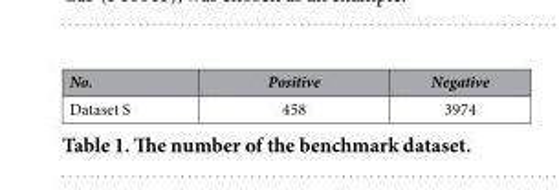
<table><thead><tr><td>No.</td><td>Positive</td><td>Negative</td></tr></thead><tbody><tr><td>Dataset S</td><td>458</td><td>3974</td></tr></tbody></table>